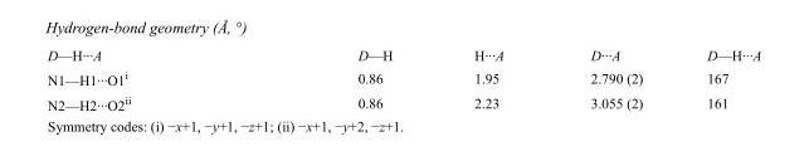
<table><tbody><tr><td>D—H···A</td><td>D—H</td><td>H···A</td><td>D···A</td><td>D—H···A</td></tr><tr><td>N1—H1···O1<sup>i</sup></td><td>0.86</td><td>1.95</td><td>2.790 (2)</td><td>167</td></tr><tr><td>N2—H2···O2<sup>ii</sup></td><td>0.86</td><td>2.23</td><td>3.055 (2)</td><td>161</td></tr></tbody></table>